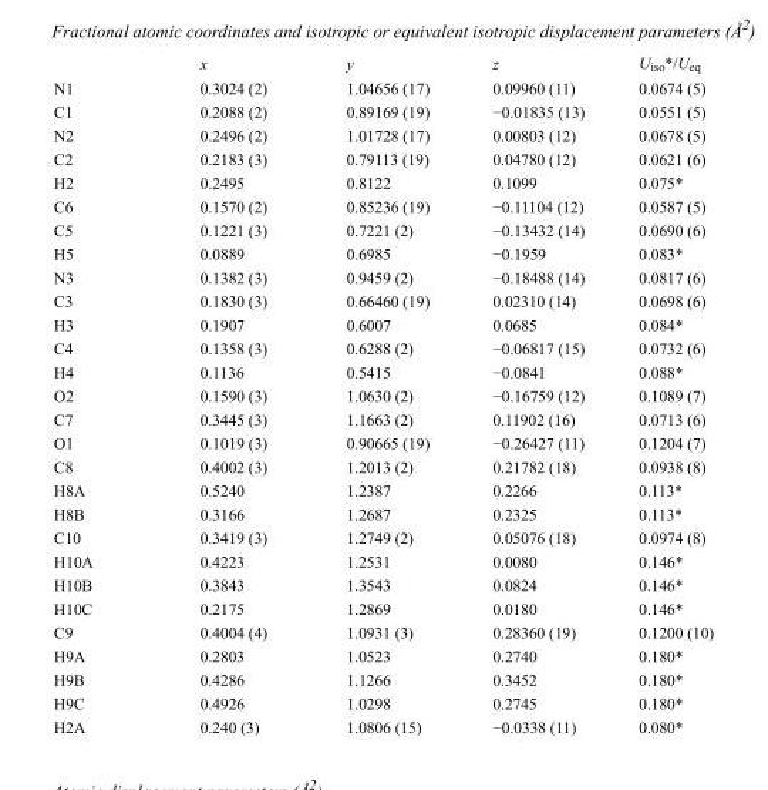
<table><thead><tr><td></td><td>x</td><td>y</td><td>z</td><td>U<sub>iso</sub>*/U<sub>eq</sub></td></tr></thead><tbody><tr><td>N1</td><td>0.3024 (2)</td><td>1.04656 (17)</td><td>0.09960 (11)</td><td>0.0674 (5)</td></tr><tr><td>C1</td><td>0.2088 (2)</td><td>0.89169 (19)</td><td>−0.01835 (13)</td><td>0.0551 (5)</td></tr><tr><td>N2</td><td>0.2496 (2)</td><td>1.01728 (17)</td><td>0.00803 (12)</td><td>0.0678 (5)</td></tr><tr><td>C2</td><td>0.2183 (3)</td><td>0.79113 (19)</td><td>0.04780 (12)</td><td>0.0621 (6)</td></tr><tr><td>H2</td><td>0.2495</td><td>0.8122</td><td>0.1099</td><td>0.075*</td></tr><tr><td>C6</td><td>0.1570 (2)</td><td>0.85236 (19)</td><td>−0.11104 (12)</td><td>0.0587 (5)</td></tr><tr><td>C5</td><td>0.1221 (3)</td><td>0.7221 (2)</td><td>−0.13432 (14)</td><td>0.0690 (6)</td></tr><tr><td>H5</td><td>0.0889</td><td>0.6985</td><td>−0.1959</td><td>0.083*</td></tr><tr><td>N3</td><td>0.1382 (3)</td><td>0.9459 (2)</td><td>−0.18488 (14)</td><td>0.0817 (6)</td></tr><tr><td>C3</td><td>0.1830 (3)</td><td>0.66460 (19)</td><td>0.02310 (14)</td><td>0.0698 (6)</td></tr><tr><td>H3</td><td>0.1907</td><td>0.6007</td><td>0.0685</td><td>0.084*</td></tr><tr><td>C4</td><td>0.1358 (3)</td><td>0.6288 (2)</td><td>−0.06817 (15)</td><td>0.0732 (6)</td></tr><tr><td>H4</td><td>0.1136</td><td>0.5415</td><td>−0.0841</td><td>0.088*</td></tr><tr><td>O2</td><td>0.1590 (3)</td><td>1.0630 (2)</td><td>−0.16759 (12)</td><td>0.1089 (7)</td></tr><tr><td>C7</td><td>0.3445 (3)</td><td>1.1663 (2)</td><td>0.11902 (16)</td><td>0.0713 (6)</td></tr><tr><td>O1</td><td>0.1019 (3)</td><td>0.90665 (19)</td><td>−0.26427 (11)</td><td>0.1204 (7)</td></tr><tr><td>C8</td><td>0.4002 (3)</td><td>1.2013 (2)</td><td>0.21782 (18)</td><td>0.0938 (8)</td></tr><tr><td>H8A</td><td>0.5240</td><td>1.2387</td><td>0.2266</td><td>0.113*</td></tr><tr><td>H8B</td><td>0.3166</td><td>1.2687</td><td>0.2325</td><td>0.113*</td></tr><tr><td>C10</td><td>0.3419 (3)</td><td>1.2749 (2)</td><td>0.05076 (18)</td><td>0.0974 (8)</td></tr><tr><td>H10A</td><td>0.4223</td><td>1.2531</td><td>0.0080</td><td>0.146*</td></tr><tr><td>H10B</td><td>0.3843</td><td>1.3543</td><td>0.0824</td><td>0.146*</td></tr><tr><td>H10C</td><td>0.2175</td><td>1.2869</td><td>0.0180</td><td>0.146*</td></tr><tr><td>C9</td><td>0.4004 (4)</td><td>1.0931 (3)</td><td>0.28360 (19)</td><td>0.1200 (10)</td></tr><tr><td>H9A</td><td>0.2803</td><td>1.0523</td><td>0.2740</td><td>0.180*</td></tr><tr><td>H9B</td><td>0.4286</td><td>1.1266</td><td>0.3452</td><td>0.180*</td></tr><tr><td>H9C</td><td>0.4926</td><td>1.0298</td><td>0.2745</td><td>0.180*</td></tr><tr><td>H2A</td><td>0.240 (3)</td><td>1.0806 (15)</td><td>−0.0338 (11)</td><td>0.080*</td></tr></tbody></table>